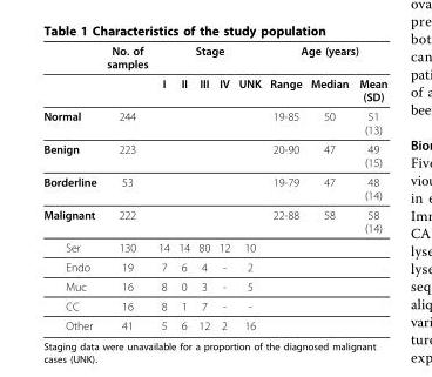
<table><thead><tr><td rowspan="2"></td><td rowspan="2">No. of samples</td><td colspan="5">Stage</td><td colspan="3">Age (years)</td></tr><tr><td>I</td><td>II</td><td>III</td><td>IV</td><td>UNK</td><td>Range</td><td>Median</td><td>Mean (SD)</td></tr></thead><tbody><tr><td>Normal</td><td>244</td><td></td><td></td><td></td><td></td><td></td><td>19-85</td><td>50</td><td>51 (13)</td></tr><tr><td>Benign</td><td>223</td><td></td><td></td><td></td><td></td><td></td><td>20-90</td><td>47</td><td>49 (15)</td></tr><tr><td>Borderline</td><td>53</td><td></td><td></td><td></td><td></td><td></td><td>19-79</td><td>47</td><td>48 (14)</td></tr><tr><td>Malignant</td><td>222</td><td></td><td></td><td></td><td></td><td></td><td>22-88</td><td>58</td><td>58 (14)</td></tr><tr><td>Ser</td><td>130</td><td>14</td><td>14</td><td>80</td><td>12</td><td>10</td><td></td><td></td><td></td></tr><tr><td>Endo</td><td>19</td><td>7</td><td>6</td><td>4</td><td>-</td><td>2</td><td></td><td></td><td></td></tr><tr><td>Muc</td><td>16</td><td>8</td><td>0</td><td>3</td><td>-</td><td>5</td><td></td><td></td><td></td></tr><tr><td>CC</td><td>16</td><td>8</td><td>1</td><td>7</td><td>-</td><td>-</td><td></td><td></td><td></td></tr><tr><td>Other</td><td>41</td><td>5</td><td>6</td><td>12</td><td>2</td><td>16</td><td></td><td></td><td></td></tr></tbody></table>